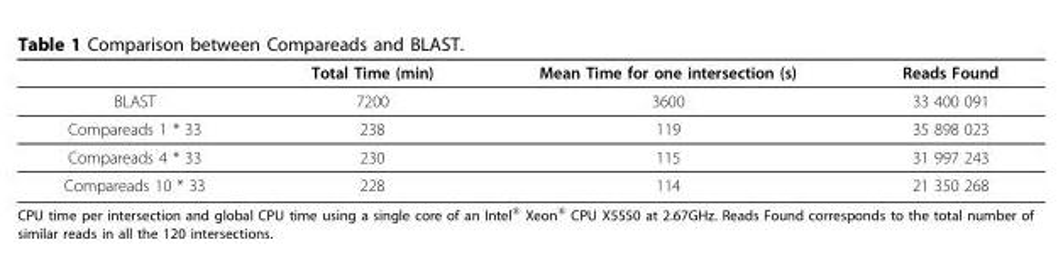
<table><thead><tr><td></td><td>Total Time (min)</td><td>Mean Time for one intersection (s)</td><td>Reads Found</td></tr></thead><tbody><tr><td>BLAST</td><td>7200</td><td>3600</td><td>33 400 091</td></tr><tr><td>Compareads 1 * 33</td><td>238</td><td>119</td><td>35 898 023</td></tr><tr><td>Compareads 4 * 33</td><td>230</td><td>115</td><td>31 997 243</td></tr><tr><td>Compareads 10 * 33</td><td>228</td><td>114</td><td>21 350 268</td></tr></tbody></table>